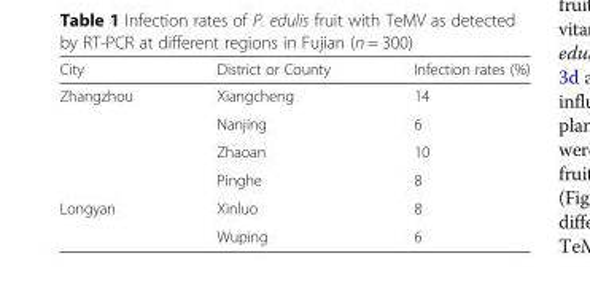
<table><thead><tr><td>City</td><td>District or County</td><td>Infection rates (%)</td></tr></thead><tbody><tr><td rowspan="4">Zhangzhou</td><td>Xiangcheng</td><td>14</td></tr><tr><td>Nanjing</td><td>6</td></tr><tr><td>Zhaoan</td><td>10</td></tr><tr><td>Pinghe</td><td>8</td></tr><tr><td rowspan="2">Longyan</td><td>Xinluo</td><td>8</td></tr><tr><td>Wuping</td><td>6</td></tr></tbody></table>